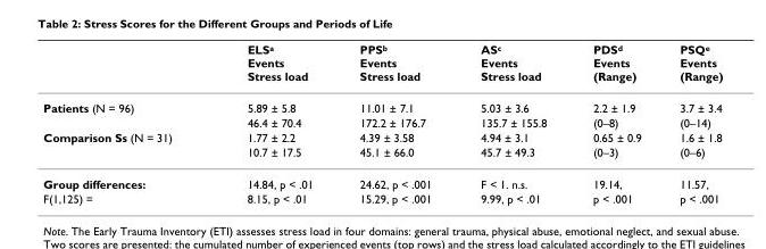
<table><thead><tr><td></td><td>ELS<sup>a</sup> Events Stress load</td><td>PPS<sup>b</sup> Events Stress load</td><td>AS<sup>c</sup> Events Stress load</td><td>PDS<sup>d</sup> Events (Range)</td><td>PSQ<sup>e</sup> Events (Range)</td></tr></thead><tbody><tr><td rowspan="2">Patients (N = 96)</td><td>5.89 ± 5.8</td><td>11.01 ± 7.1</td><td>5.03 ± 3.6</td><td>2.2 ± 1.9</td><td>3.7 ± 3.4</td></tr><tr><td>46.4 ± 70.4</td><td>172.2 ± 176.7</td><td>135.7 ± 155.8</td><td>(0–8)</td><td>(0–14)</td></tr><tr><td rowspan="2">Comparison Ss (N = 31)</td><td>1.77 ± 2.2</td><td>4.39 ± 3.58</td><td>4.94 ± 3.1</td><td>0.65 ± 0.9</td><td>1.6 ± 1.8</td></tr><tr><td>10.7 ± 17.5</td><td>45.1 ± 66.0</td><td>45.7 ± 49.3</td><td>(0–3)</td><td>(0–6)</td></tr><tr><td>Group differences:</td><td>14.84, p &lt; .01</td><td>24.62, p &lt; .001</td><td>F &lt; 1. n.s.</td><td>19.14,</td><td>11.57,</td></tr><tr><td>F(1,125) =</td><td>8.15, p &lt; .01</td><td>15.29, p &lt; .001</td><td>9.99, p &lt; .01</td><td>p &lt; .001</td><td>p &lt; .001</td></tr></tbody></table>